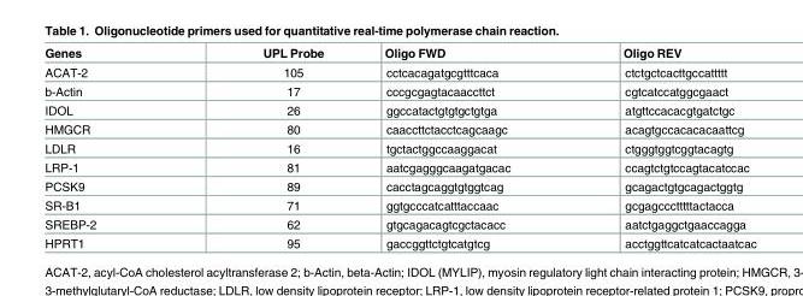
<table><thead><tr><td>Genes</td><td>UPL Probe</td><td>Oligo FWD</td><td>Oligo REV</td></tr></thead><tbody><tr><td>ACAT-2</td><td>105</td><td>cctcacagatgcgtttcaca</td><td>ctctgctcacttgccattttt</td></tr><tr><td>b-Actin</td><td>17</td><td>cccgcgagtacaaccttct</td><td>cgtcatccatggcgaact</td></tr><tr><td>IDOL</td><td>26</td><td>ggccatactgtgtgctgtga</td><td>atgttccacacgtgatctgc</td></tr><tr><td>HMGCR</td><td>80</td><td>caaccttctacctcagcaagc</td><td>acagtgccacacacaattcg</td></tr><tr><td>LDLR</td><td>16</td><td>tgctactggccaaggacat</td><td>ctgggtggtcggtacagtg</td></tr><tr><td>LRP-1</td><td>81</td><td>aatcgagggcaagatgacac</td><td>ccagtctgtccagtacatccac</td></tr><tr><td>PCSK9</td><td>89</td><td>cacctagcaggtgtggtcag</td><td>gcagactgtgcagactggtg</td></tr><tr><td>SR-B1</td><td>71</td><td>ggtgcccatcatttaccaac</td><td>gcgagccctttttactacca</td></tr><tr><td>SREBP-2</td><td>62</td><td>gtgcagacagtcgctacacc</td><td>aatctgaggctgaaccagga</td></tr><tr><td>HPRT1</td><td>95</td><td>gaccggttctgtcatgtcg</td><td>acctggttcatcatcactaatcac</td></tr></tbody></table>